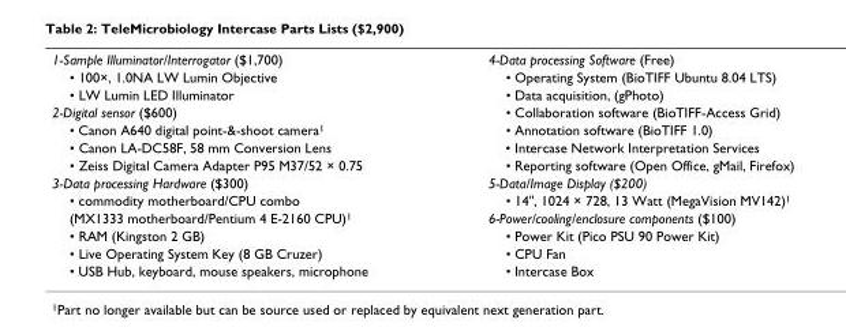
<table><tbody><tr><td>1-Sample Illuminator/Interrogator ($1,700)</td><td>4-Data processing Software (Free)</td></tr><tr><td>• 100×, 1.0NA LW Lumin Objective</td><td>• Operating System (BioTIFF Ubuntu 8.04 LTS)</td></tr><tr><td>• LW Lumin LED Illuminator</td><td>• Data acquisition, (gPhoto)</td></tr><tr><td>2-Digital sensor ($600)</td><td>• Collaboration software (BioTIFF-Access Grid)</td></tr><tr><td>• Canon A640 digital point-&amp;-shoot camera<sup>1</sup></td><td>• Annotation software (BioTIFF 1.0)</td></tr><tr><td>• Canon LA-DC58F, 58 mm Conversion Lens</td><td>• Intercase Network Interpretation Services</td></tr><tr><td>• Zeiss Digital Camera Adapter P95 M37/52 × 0.75</td><td>• Reporting software (Open Office, gMail, Firefox)</td></tr><tr><td>3-Data processing Hardware ($300)</td><td>5-Data/Image Display ($200)</td></tr><tr><td>• commodity motherboard/CPU combo</td><td>• 14&quot;, 1024 × 728, 13 Watt (MegaVision MV142)<sup>1</sup></td></tr><tr><td>(MX1333 motherboard/Pentium 4 E-2160 CPU)<sup>1</sup></td><td>6-Power/cooling/enclosure components ($100)</td></tr><tr><td>• RAM (Kingston 2 GB)</td><td>• Power Kit (Pico PSU 90 Power Kit)</td></tr><tr><td>• Live Operating System Key (8 GB Cruzer)</td><td>• CPU Fan</td></tr><tr><td>• USB Hub, keyboard, mouse speakers, microphone</td><td>• Intercase Box</td></tr></tbody></table>